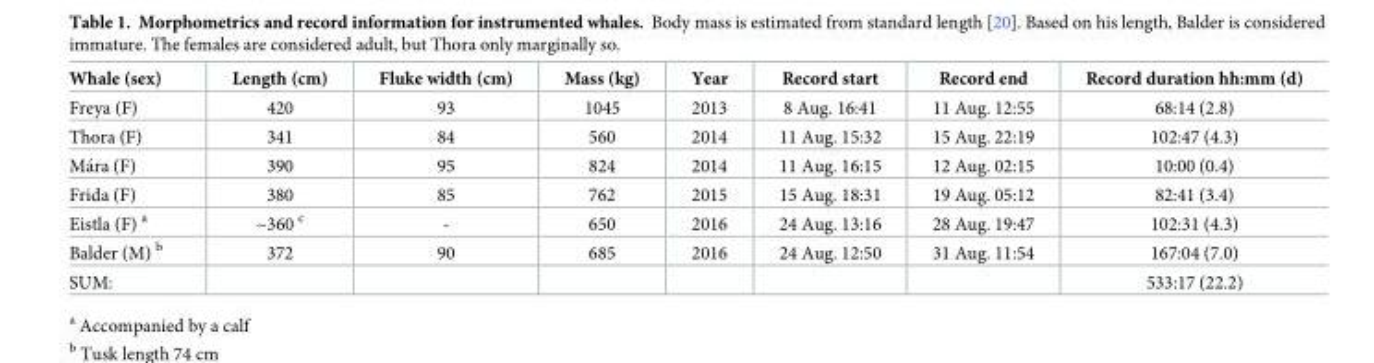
<table><thead><tr><td>Whale (sex)</td><td>Length (cm)</td><td>Fluke width (cm)</td><td>Mass (kg)</td><td>Year</td><td>Record start</td><td>Record end</td><td>Record duration hh:mm (d)</td></tr></thead><tbody><tr><td>Freya (F)</td><td>420</td><td>93</td><td>1045</td><td>2013</td><td>8 Aug. 16:41</td><td>11 Aug. 12:55</td><td>68:14 (2.8)</td></tr><tr><td>Thora (F)</td><td>341</td><td>84</td><td>560</td><td>2014</td><td>11 Aug. 15:32</td><td>15 Aug. 22:19</td><td>102:47 (4.3)</td></tr><tr><td>Ma´ra (F)</td><td>390</td><td>95</td><td>824</td><td>2014</td><td>11 Aug. 16:15</td><td>12 Aug. 02:15</td><td>10:00 (0.4)</td></tr><tr><td>Frida (F)</td><td>380</td><td>85</td><td>762</td><td>2015</td><td>15 Aug. 18:31</td><td>19 Aug. 05:12</td><td>82:41 (3.4)</td></tr><tr><td>Eistla (F) <sup>a</sup></td><td>~360 <sup>c</sup></td><td>-</td><td>650</td><td>2016</td><td>24 Aug. 13:16</td><td>28 Aug. 19:47</td><td>102:31 (4.3)</td></tr><tr><td>Balder (M) <sup>b</sup></td><td>372</td><td>90</td><td>685</td><td>2016</td><td>24 Aug. 12:50</td><td>31 Aug. 11:54</td><td>167:04 (7.0)</td></tr><tr><td>SUM:</td><td></td><td></td><td></td><td></td><td></td><td></td><td>533:17 (22.2)</td></tr></tbody></table>